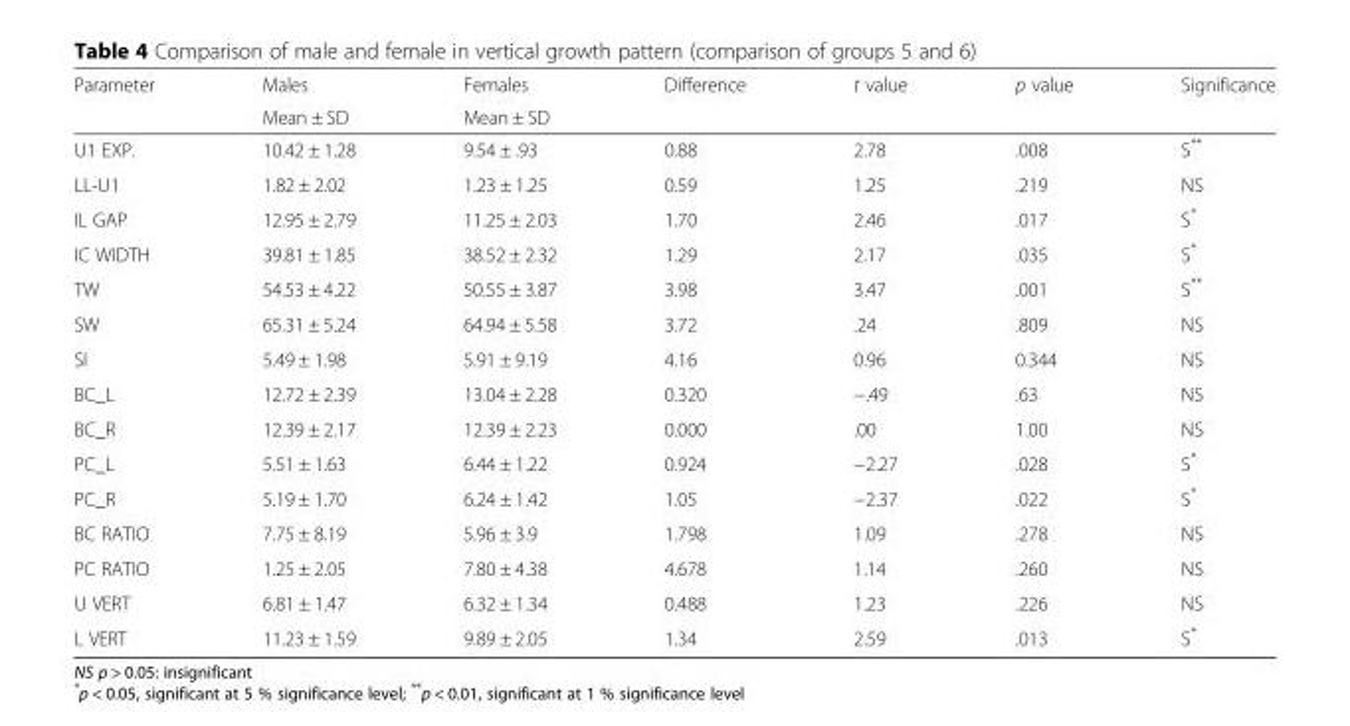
<table><thead><tr><td rowspan="2">Parameter</td><td rowspan="2">Males Mean ± SD</td><td rowspan="2">Females Mean ± SD</td><td rowspan="2">Difference</td><td rowspan="2">t value</td><td rowspan="2">p value</td><td rowspan="2">Significance</td></tr><tr></tr></thead><tbody><tr><td>U1 EXP.</td><td>10.42 ± 1.28</td><td>9.54 ± .93</td><td>0.88</td><td>2.78</td><td>.008</td><td>S**</td></tr><tr><td>LL-U1</td><td>1.82 ± 2.02</td><td>1.23 ± 1.25</td><td>0.59</td><td>1.25</td><td>.219</td><td>NS</td></tr><tr><td>IL GAP</td><td>12.95 ± 2.79</td><td>11.25 ± 2.03</td><td>1.70</td><td>2.46</td><td>.017</td><td>S*</td></tr><tr><td>IC WIDTH</td><td>39.81 ± 1.85</td><td>38.52 ± 2.32</td><td>1.29</td><td>2.17</td><td>.035</td><td>S*</td></tr><tr><td>TW</td><td>54.53 ± 4.22</td><td>50.55 ± 3.87</td><td>3.98</td><td>3.47</td><td>.001</td><td>S**</td></tr><tr><td>SW</td><td>65.31 ± 5.24</td><td>64.94 ± 5.58</td><td>3.72</td><td>.24</td><td>.809</td><td>NS</td></tr><tr><td>SI</td><td>5.49 ± 1.98</td><td>5.91 ± 9.19</td><td>4.16</td><td>0.96</td><td>0.344</td><td>NS</td></tr><tr><td>BC_L</td><td>12.72 ± 2.39</td><td>13.04 ± 2.28</td><td>0.320</td><td>−.49</td><td>.63</td><td>NS</td></tr><tr><td>BC_R</td><td>12.39 ± 2.17</td><td>12.39 ± 2.23</td><td>0.000</td><td>.00</td><td>1.00</td><td>NS</td></tr><tr><td>PC_L</td><td>5.51 ± 1.63</td><td>6.44 ± 1.22</td><td>0.924</td><td>−2.27</td><td>.028</td><td>S*</td></tr><tr><td>PC_R</td><td>5.19 ± 1.70</td><td>6.24 ± 1.42</td><td>1.05</td><td>−2.37</td><td>.022</td><td>S*</td></tr><tr><td>BC RATIO</td><td>7.75 ± 8.19</td><td>5.96 ± 3.9</td><td>1.798</td><td>1.09</td><td>.278</td><td>NS</td></tr><tr><td>PC RATIO</td><td>1.25 ± 2.05</td><td>7.80 ± 4.38</td><td>4.678</td><td>1.14</td><td>.260</td><td>NS</td></tr><tr><td>U VERT</td><td>6.81 ± 1.47</td><td>6.32 ± 1.34</td><td>0.488</td><td>1.23</td><td>.226</td><td>NS</td></tr><tr><td>L VERT</td><td>11.23 ± 1.59</td><td>9.89 ± 2.05</td><td>1.34</td><td>2.59</td><td>.013</td><td>S*</td></tr></tbody></table>